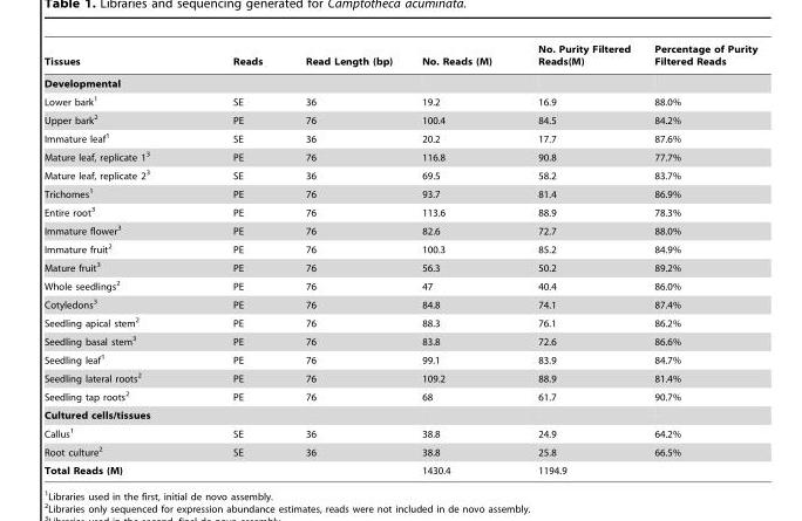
<table><thead><tr><td>Tissues</td><td>Reads</td><td>Read Length (bp)</td><td>No. Reads (M)</td><td>No. Purity Filtered Reads(M)</td><td>Percentage of Purity Filtered Reads</td></tr></thead><tbody><tr><td colspan="6">Developmental</td></tr><tr><td>Lower bark<sup>1</sup></td><td>SE</td><td>36</td><td>19.2</td><td>16.9</td><td>88.0%</td></tr><tr><td>Upper bark<sup>2</sup></td><td>PE</td><td>76</td><td>100.4</td><td>84.5</td><td>84.2%</td></tr><tr><td>Immature leaf<sup>1</sup></td><td>SE</td><td>36</td><td>20.2</td><td>17.7</td><td>87.6%</td></tr><tr><td>Mature leaf, replicate 1<sup>3</sup></td><td>PE</td><td>76</td><td>116.8</td><td>90.8</td><td>77.7%</td></tr><tr><td>Mature leaf, replicate 2<sup>3</sup></td><td>SE</td><td>36</td><td>69.5</td><td>58.2</td><td>83.7%</td></tr><tr><td>Trichomes<sup>1</sup></td><td>PE</td><td>76</td><td>93.7</td><td>81.4</td><td>86.9%</td></tr><tr><td>Entire root<sup>3</sup></td><td>PE</td><td>76</td><td>113.6</td><td>88.9</td><td>78.3%</td></tr><tr><td>Immature flower<sup>3</sup></td><td>PE</td><td>76</td><td>82.6</td><td>72.7</td><td>88.0%</td></tr><tr><td>Immature fruit<sup>2</sup></td><td>PE</td><td>76</td><td>100.3</td><td>85.2</td><td>84.9%</td></tr><tr><td>Mature fruit<sup>3</sup></td><td>PE</td><td>76</td><td>56.3</td><td>50.2</td><td>89.2%</td></tr><tr><td>Whole seedlings<sup>2</sup></td><td>PE</td><td>76</td><td>47</td><td>40.4</td><td>86.0%</td></tr><tr><td>Cotyledons<sup>3</sup></td><td>PE</td><td>76</td><td>84.8</td><td>74.1</td><td>87.4%</td></tr><tr><td>Seedling apical stem<sup>2</sup></td><td>PE</td><td>76</td><td>88.3</td><td>76.1</td><td>86.2%</td></tr><tr><td>Seedling basal stem<sup>3</sup></td><td>PE</td><td>76</td><td>83.8</td><td>72.6</td><td>86.6%</td></tr><tr><td>Seedling leaf<sup>1</sup></td><td>PE</td><td>76</td><td>99.1</td><td>83.9</td><td>84.7%</td></tr><tr><td>Seedling lateral roots<sup>2</sup></td><td>PE</td><td>76</td><td>109.2</td><td>88.9</td><td>81.4%</td></tr><tr><td>Seedling tap roots<sup>2</sup></td><td>PE</td><td>76</td><td>68</td><td>61.7</td><td>90.7%</td></tr><tr><td colspan="6">Cultured cells/tissues</td></tr><tr><td>Callus<sup>1</sup></td><td>SE</td><td>36</td><td>38.8</td><td>24.9</td><td>64.2%</td></tr><tr><td>Root culture<sup>2</sup></td><td>SE</td><td>36</td><td>38.8</td><td>25.8</td><td>66.5%</td></tr><tr><td>Total Reads (M)</td><td></td><td></td><td>1430.4</td><td>1194.9</td><td></td></tr></tbody></table>